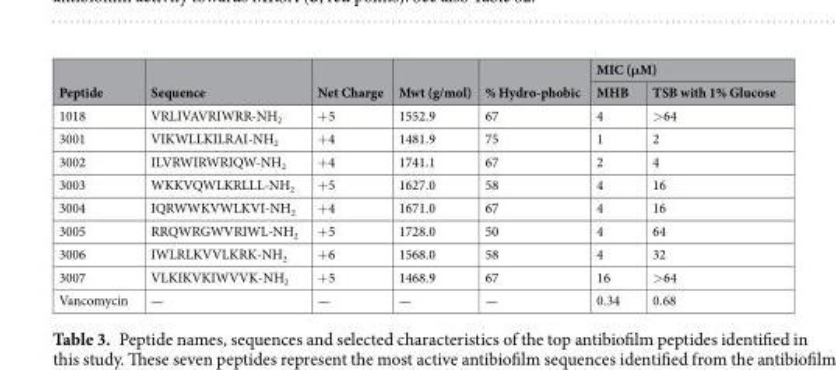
<table><thead><tr><td rowspan="2">Peptide</td><td rowspan="2">Sequence</td><td rowspan="2">Net Charge</td><td rowspan="2">Mwt (g/mol)</td><td rowspan="2">% Hydro-phobic</td><td colspan="2">MIC (μM)</td></tr><tr><td>MHB</td><td>TSB with 1% Glucose</td></tr></thead><tbody><tr><td>1018</td><td>VRLIVAVRIWRR-NH<sub>2</sub></td><td>+5</td><td>1552.9</td><td>67</td><td>4</td><td>&gt;64</td></tr><tr><td>3001</td><td>VIKWLLKILRAI-NH<sub>2</sub></td><td>+4</td><td>1481.9</td><td>75</td><td>1</td><td>2</td></tr><tr><td>3002</td><td>ILVRWIRWRIQW-NH<sub>2</sub></td><td>+4</td><td>1741.1</td><td>67</td><td>2</td><td>4</td></tr><tr><td>3003</td><td>WKKVQWLKRLLL-NH<sub>2</sub></td><td>+5</td><td>1627.0</td><td>58</td><td>4</td><td>16</td></tr><tr><td>3004</td><td>IQRWWKVWLKVI-NH<sub>2</sub></td><td>+4</td><td>1671.0</td><td>67</td><td>4</td><td>16</td></tr><tr><td>3005</td><td>RRQWRGWVRIWL-NH<sub>2</sub></td><td>+5</td><td>1728.0</td><td>50</td><td>4</td><td>64</td></tr><tr><td>3006</td><td>IWLRLKVVLKRK-NH<sub>2</sub></td><td>+6</td><td>1568.0</td><td>58</td><td>4</td><td>32</td></tr><tr><td>3007</td><td>VLKIKVKIWVVK-NH<sub>2</sub></td><td>+5</td><td>1468.9</td><td>67</td><td>16</td><td>&gt;64</td></tr><tr><td>Vancomycin</td><td>—</td><td>—</td><td>—</td><td>—</td><td>0.34</td><td>0.68</td></tr></tbody></table>